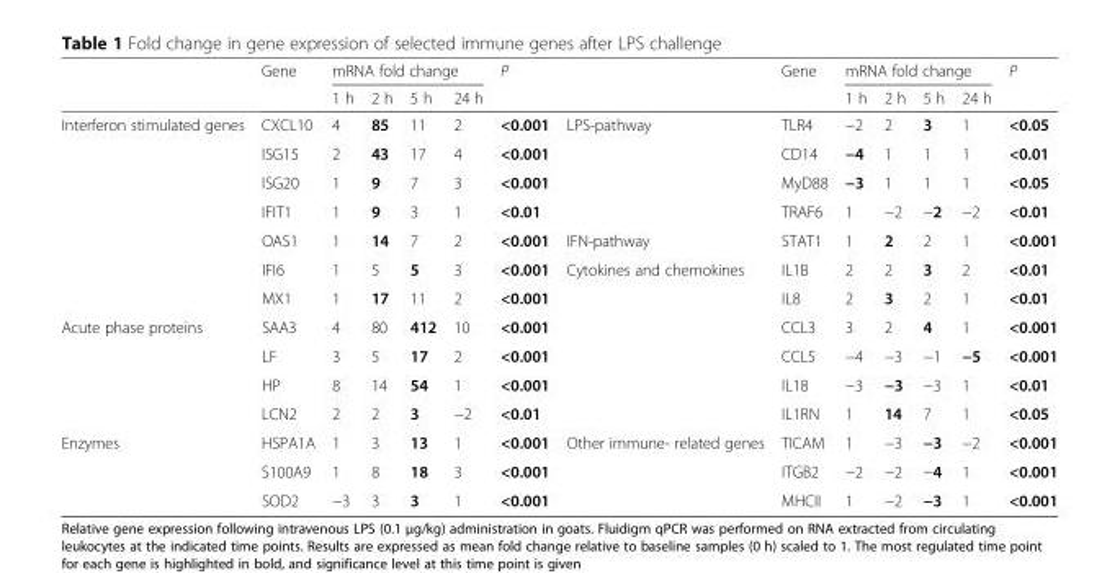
<table><thead><tr><td rowspan="2"></td><td rowspan="2">Gene</td><td colspan="4">mRNA fold change</td><td rowspan="2">P</td><td rowspan="2"></td><td rowspan="2">Gene</td><td colspan="4">mRNA fold change</td><td rowspan="2">P</td></tr><tr><td>1 h</td><td>2 h</td><td>5 h</td><td>24 h</td><td>1 h</td><td>2 h</td><td>5 h</td><td>24 h</td></tr></thead><tbody><tr><td rowspan="7">Interferon stimulated genes</td><td>CXCL10</td><td>4</td><td>85</td><td>11</td><td>2</td><td>&lt;0.001</td><td rowspan="4">LPS-pathway</td><td>TLR4</td><td>−2</td><td>2</td><td>3</td><td>1</td><td>&lt;0.05</td></tr><tr><td>ISG15</td><td>2</td><td>43</td><td>17</td><td>4</td><td>&lt;0.001</td><td>CD14</td><td>−4</td><td>1</td><td>1</td><td>1</td><td>&lt;0.01</td></tr><tr><td>ISG20</td><td>1</td><td>9</td><td>7</td><td>3</td><td>&lt;0.001</td><td>MyD88</td><td>−3</td><td>1</td><td>1</td><td>1</td><td>&lt;0.05</td></tr><tr><td>IFIT1</td><td>1</td><td>9</td><td>3</td><td>1</td><td>&lt;0.01</td><td>TRAF6</td><td>1</td><td>−2</td><td>−2</td><td>−2</td><td>&lt;0.01</td></tr><tr><td>OAS1</td><td>1</td><td>14</td><td>7</td><td>2</td><td>&lt;0.001</td><td>IFN-pathway</td><td>STAT1</td><td>1</td><td>2</td><td>2</td><td>1</td><td>&lt;0.001</td></tr><tr><td>IFI6</td><td>1</td><td>5</td><td>5</td><td>3</td><td>&lt;0.001</td><td rowspan="6">Cytokines and chemokines</td><td>IL1B</td><td>2</td><td>2</td><td>3</td><td>2</td><td>&lt;0.01</td></tr><tr><td>MX1</td><td>1</td><td>17</td><td>11</td><td>2</td><td>&lt;0.001</td><td>IL8</td><td>2</td><td>3</td><td>2</td><td>1</td><td>&lt;0.01</td></tr><tr><td rowspan="4">Acute phase proteins</td><td>SAA3</td><td>4</td><td>80</td><td>412</td><td>10</td><td>&lt;0.001</td><td>CCL3</td><td>3</td><td>2</td><td>4</td><td>1</td><td>&lt;0.001</td></tr><tr><td>LF</td><td>3</td><td>5</td><td>17</td><td>2</td><td>&lt;0.001</td><td>CCL5</td><td>−4</td><td>−3</td><td>−1</td><td>−5</td><td>&lt;0.001</td></tr><tr><td>HP</td><td>8</td><td>14</td><td>54</td><td>1</td><td>&lt;0.001</td><td>IL18</td><td>−3</td><td>−3</td><td>−3</td><td>1</td><td>&lt;0.01</td></tr><tr><td>LCN2</td><td>2</td><td>2</td><td>3</td><td>−2</td><td>&lt;0.01</td><td>IL1RN</td><td>1</td><td>14</td><td>7</td><td>1</td><td>&lt;0.05</td></tr><tr><td rowspan="3">Enzymes</td><td>HSPA1A</td><td>1</td><td>3</td><td>13</td><td>1</td><td>&lt;0.001</td><td rowspan="3">Other immune- related genes</td><td>TICAM</td><td>1</td><td>−3</td><td>−3</td><td>−2</td><td>&lt;0.001</td></tr><tr><td>S100A9</td><td>1</td><td>8</td><td>18</td><td>3</td><td>&lt;0.001</td><td>ITGB2</td><td>−2</td><td>−2</td><td>−4</td><td>1</td><td>&lt;0.001</td></tr><tr><td>SOD2</td><td>−3</td><td>3</td><td>3</td><td>1</td><td>&lt;0.001</td><td>MHCII</td><td>1</td><td>−2</td><td>−3</td><td>1</td><td>&lt;0.001</td></tr></tbody></table>